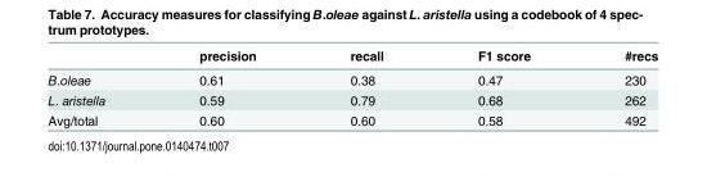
<table><thead><tr><td></td><td>precision</td><td>recall</td><td>F1 score</td><td>#recs</td></tr></thead><tbody><tr><td>B.oleae</td><td>0.61</td><td>0.38</td><td>0.47</td><td>230</td></tr><tr><td>L. aristella</td><td>0.59</td><td>0.79</td><td>0.68</td><td>262</td></tr><tr><td>Avg/total</td><td>0.60</td><td>0.60</td><td>0.58</td><td>492</td></tr></tbody></table>